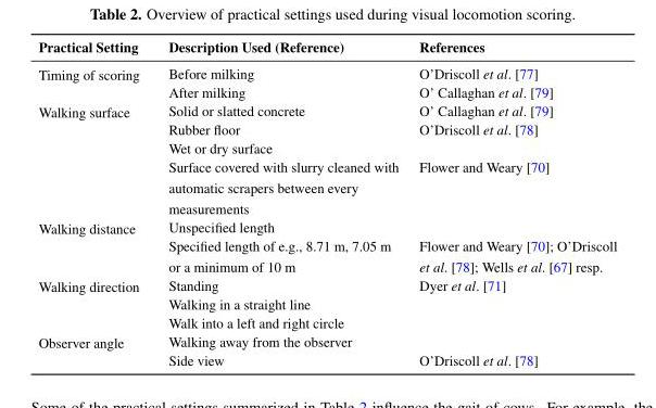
<table><thead><tr><td>Practical Setting</td><td>Description Used (Reference)</td><td>References</td></tr></thead><tbody><tr><td rowspan="2">Timing of scoring</td><td>Before milking</td><td>O’Driscoll et al. [77]</td></tr><tr><td>After milking</td><td>O’ Callaghan et al. [79]</td></tr><tr><td rowspan="4">Walking surface</td><td>Solid or slatted concrete</td><td>O’ Callaghan et al. [79]</td></tr><tr><td>Rubber floor</td><td>O’Driscoll et al. [78]</td></tr><tr><td>Wet or dry surface</td><td></td></tr><tr><td>Surface covered with slurry cleaned with automatic scrapers between every measurements</td><td>Flower and Weary [70]</td></tr><tr><td rowspan="2">Walking distance</td><td>Unspecified length</td><td></td></tr><tr><td>Specified length of e.g., 8.71 m, 7.05 m or a minimum of 10 m</td><td>Flower and Weary [70]; O’Driscoll et al. [78]; Wells et al. [67] resp.</td></tr><tr><td rowspan="3">Walking direction</td><td>Standing</td><td>Dyer et al. [71]</td></tr><tr><td>Walking in a straight line</td><td></td></tr><tr><td>Walk into a left and right circle</td><td></td></tr><tr><td rowspan="2">Observer angle</td><td>Walking away from the observer</td><td></td></tr><tr><td>Side view</td><td>O’Driscoll et al. [78]</td></tr></tbody></table>